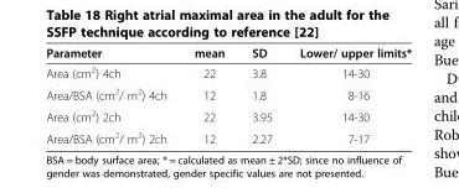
<table><thead><tr><td>Parameter</td><td>mean</td><td>SD</td><td>Lower/ upper limits*</td></tr></thead><tbody><tr><td>Area (cm<sup>2</sup>) 4ch</td><td>22</td><td>3.8</td><td>14-30</td></tr><tr><td>Area/BSA (cm<sup>2</sup>/ m<sup>2</sup>) 4ch</td><td>12</td><td>1.8</td><td>8-16</td></tr><tr><td>Area (cm<sup>2</sup>) 2ch</td><td>22</td><td>3.95</td><td>14-30</td></tr><tr><td>Area/BSA (cm<sup>2</sup>/ m<sup>2</sup>) 2ch</td><td>12</td><td>2.27</td><td>7-17</td></tr></tbody></table>